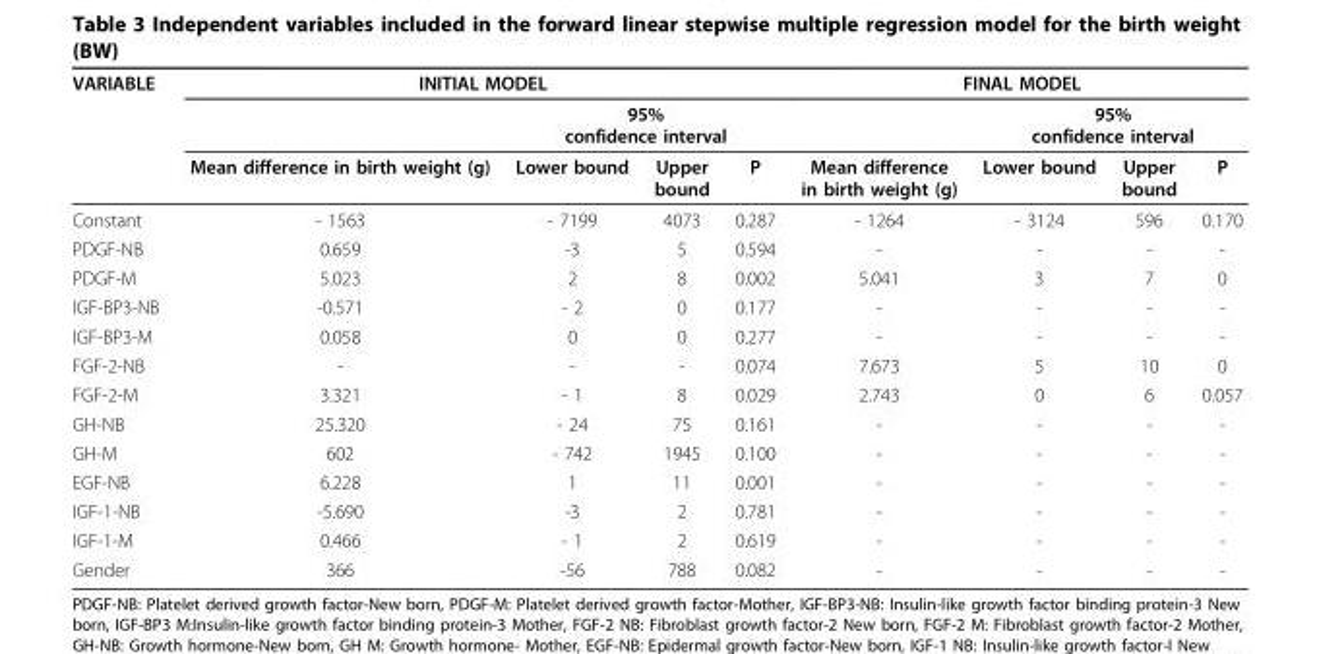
<table><thead><tr><td rowspan="3">VARIABLE</td><td colspan="4">INITIAL MODEL</td><td colspan="4">FINAL MODEL</td></tr><tr><td rowspan="2">Mean difference in birth weight (g)</td><td colspan="3">95% confidence interval</td><td rowspan="2">Mean difference in birth weight (g)</td><td colspan="3">95% confidence interval</td></tr><tr><td>Lower bound</td><td>Upper bound</td><td>P</td><td>Lower bound</td><td>Upper bound</td><td>P</td></tr></thead><tbody><tr><td>Constant</td><td>- 1563</td><td>- 7199</td><td>4073</td><td>0.287</td><td>- 1264</td><td>- 3124</td><td>596</td><td>0.170</td></tr><tr><td>PDGF-NB</td><td>0.659</td><td>-3</td><td>5</td><td>0.594</td><td>-</td><td>-</td><td>-</td><td>-</td></tr><tr><td>PDGF-M</td><td>5.023</td><td>2</td><td>8</td><td>0.002</td><td>5.041</td><td>3</td><td>7</td><td>0</td></tr><tr><td>IGF-BP3-NB</td><td>-0.571</td><td>- 2</td><td>0</td><td>0.177</td><td>-</td><td>-</td><td>-</td><td>-</td></tr><tr><td>IGF-BP3-M</td><td>0.058</td><td>0</td><td>0</td><td>0.277</td><td>-</td><td>-</td><td>-</td><td>-</td></tr><tr><td>FGF-2-NB</td><td>-</td><td>-</td><td>-</td><td>0.074</td><td>7.673</td><td>5</td><td>10</td><td>0</td></tr><tr><td>FGF-2-M</td><td>3.321</td><td>- 1</td><td>8</td><td>0.029</td><td>2.743</td><td>0</td><td>6</td><td>0.057</td></tr><tr><td>GH-NB</td><td>25.320</td><td>- 24</td><td>75</td><td>0.161</td><td>-</td><td>-</td><td>-</td><td>-</td></tr><tr><td>GH-M</td><td>602</td><td>- 742</td><td>1945</td><td>0.100</td><td>-</td><td>-</td><td>-</td><td>-</td></tr><tr><td>EGF-NB</td><td>6.228</td><td>1</td><td>11</td><td>0.001</td><td>-</td><td>-</td><td>-</td><td>-</td></tr><tr><td>IGF-1-NB</td><td>-5.690</td><td>-3</td><td>2</td><td>0.781</td><td>-</td><td>-</td><td>-</td><td>-</td></tr><tr><td>IGF-1-M</td><td>0.466</td><td>- 1</td><td>2</td><td>0.619</td><td>-</td><td>-</td><td>-</td><td>-</td></tr><tr><td>Gender</td><td>366</td><td>-56</td><td>788</td><td>0.082</td><td>-</td><td>-</td><td>-</td><td>-</td></tr></tbody></table>